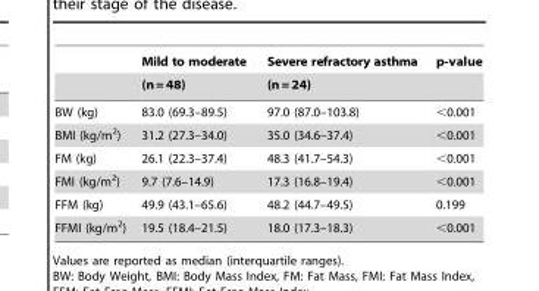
<table><thead><tr><td rowspan="2"></td><td rowspan="2">Mild to moderate (n = 48)</td><td rowspan="2">Severe refractory asthma (n = 24)</td><td rowspan="2">p-value</td></tr><tr></tr></thead><tbody><tr><td>BW (kg)</td><td>83.0 (69.3–89.5)</td><td>97.0 (87.0–103.8)</td><td>&lt;0.001</td></tr><tr><td>BMI (kg/m<sup>2</sup>)</td><td>31.2 (27.3–34.0)</td><td>35.0 (34.6–37.4)</td><td>&lt;0.001</td></tr><tr><td>FM (kg)</td><td>26.1 (22.3–37.4)</td><td>48.3 (41.7–54.3)</td><td>&lt;0.001</td></tr><tr><td>FMI (kg/m<sup>2</sup>)</td><td>9.7 (7.6–14.9)</td><td>17.3 (16.8–19.4)</td><td>&lt;0.001</td></tr><tr><td>FFM (kg)</td><td>49.9 (43.1–65.6)</td><td>48.2 (44.7–49.5)</td><td>0.199</td></tr><tr><td>FFMI (kg/m<sup>2</sup>)</td><td>19.5 (18.4–21.5)</td><td>18.0 (17.3–18.3)</td><td>&lt;0.001</td></tr></tbody></table>